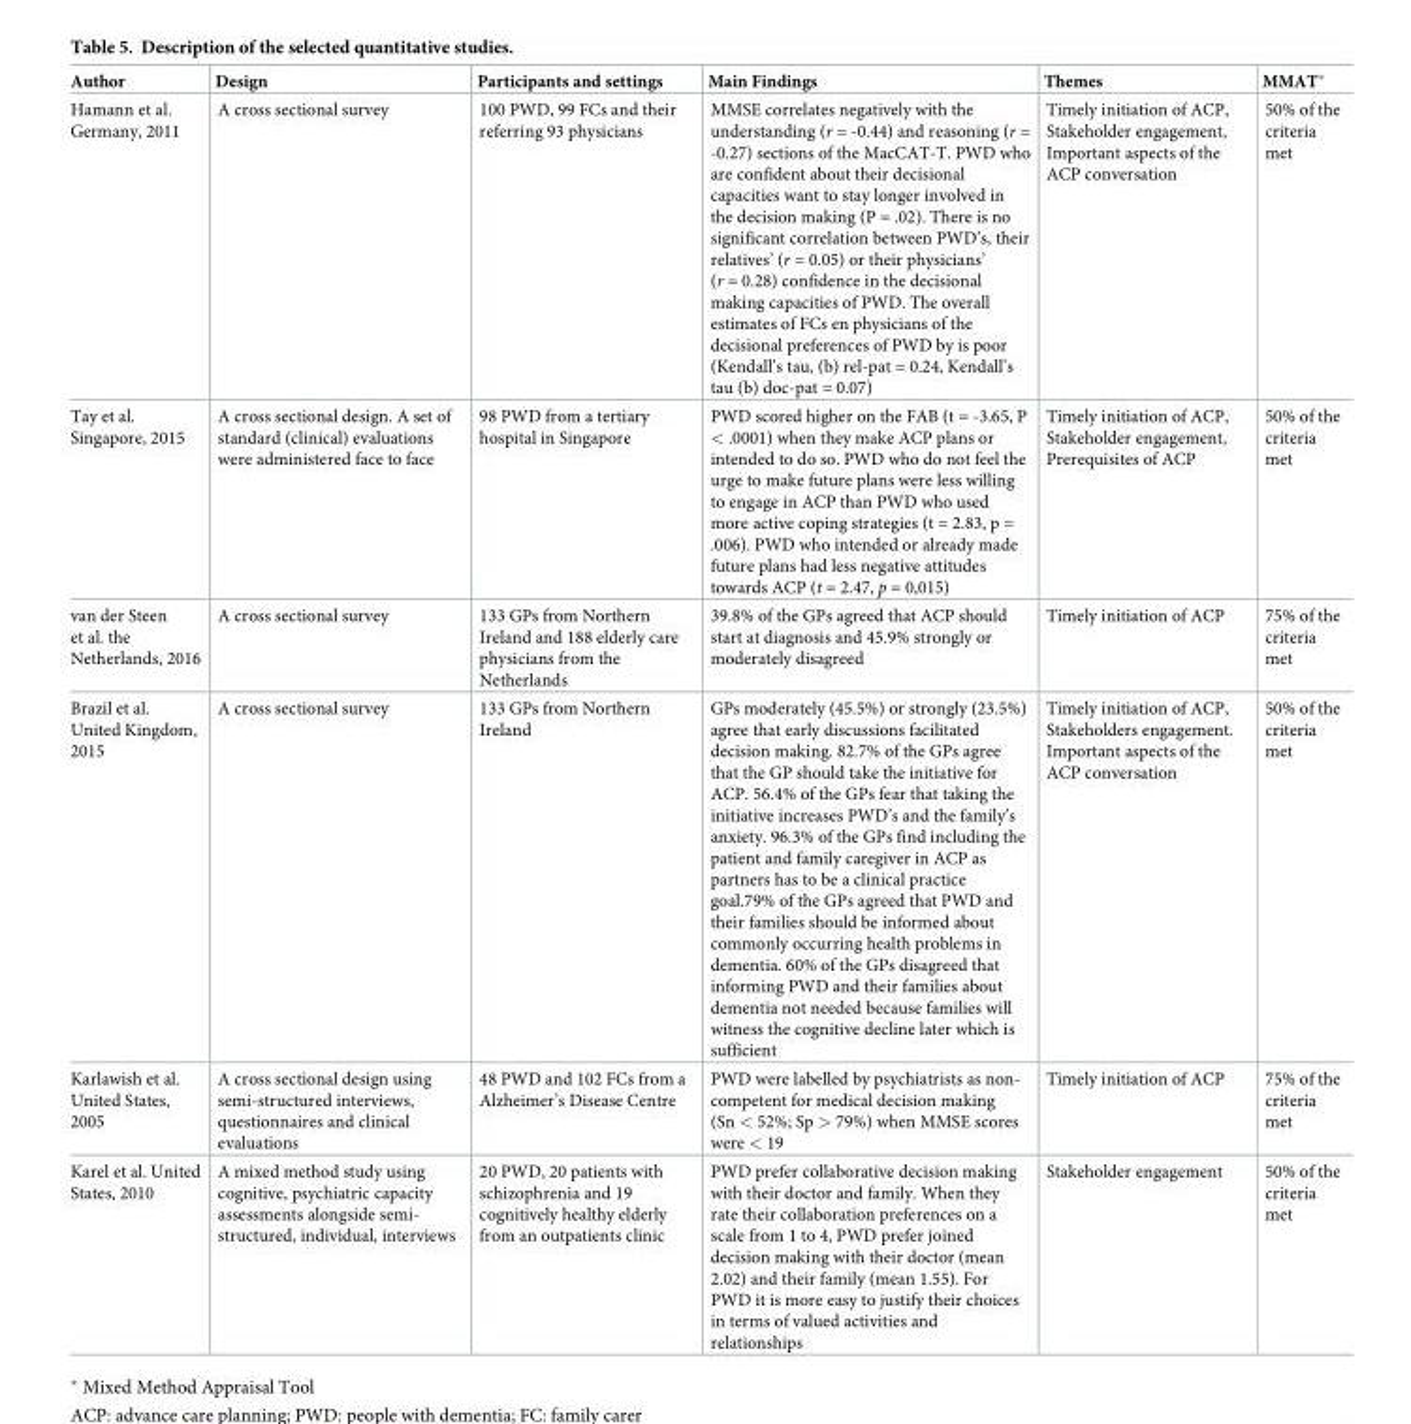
<table><thead><tr><td>Author</td><td>Design</td><td>Participants and settings</td><td>Main Findings</td><td>Themes</td><td>MMAT*</td></tr></thead><tbody><tr><td>Hamann et al. Germany, 2011</td><td>A cross sectional survey</td><td>100 PWD, 99 FCs and their referring 93 physicians</td><td>MMSE correlates negatively with the understanding (r = -0.44) and reasoning (r = -0.27) sections of the MacCAT-T. PWD who are confident about their decisional capacities want to stay longer involved in the decision making (P = .02). There is no significant correlation between PWD’s, their relatives’ (r = 0.05) or their physicians’ (r = 0.28) confidence in the decisional making capacities of PWD. The overall estimates of FCs en physicians of the decisional preferences of PWD by is poor (Kendall’s tau, (b) rel-pat = 0.24, Kendall’s tau (b) doc-pat = 0.07)</td><td>Timely initiation of ACP, Stakeholder engagement, Important aspects of the ACP conversation</td><td>50% of the criteria met</td></tr><tr><td>Tay et al. Singapore, 2015</td><td>A cross sectional design. A set of standard (clinical) evaluations were administered face to face</td><td>98 PWD from a tertiary hospital in Singapore</td><td>PWD scored higher on the FAB (t = -3.65, P &lt; .0001) when they make ACP plans or intended to do so. PWD who do not feel the urge to make future plans were less willing to engage in ACP than PWD who used more active coping strategies (t = 2.83, p = .006). PWD who intended or already made future plans had less negative attitudes towards ACP (t = 2.47, p = 0,015)</td><td>Timely initiation of ACP, Stakeholder engagement, Prerequisites of ACP</td><td>50% of the criteria met</td></tr><tr><td>van der Steen et al. the Netherlands, 2016</td><td>A cross sectional survey</td><td>133 GPs from Northern Ireland and 188 elderly care physicians from the Netherlands</td><td>39.8% of the GPs agreed that ACP should start at diagnosis and 45.9% strongly or moderately disagreed</td><td>Timely initiation of ACP</td><td>75% of the criteria met</td></tr><tr><td>Brazil et al. United Kingdom, 2015</td><td>A cross sectional survey</td><td>133 GPs from Northern Ireland</td><td>GPs moderately (45.5%) or strongly (23.5%) agree that early discussions facilitated decision making. 82.7% of the GPs agree that the GP should take the initiative for ACP. 56.4% of the GPs fear that taking the initiative increases PWD’s and the family’s anxiety. 96.3% of the GPs find including the patient and family caregiver in ACP as partners has to be a clinical practice goal.79% of the GPs agreed that PWD and their families should be informed about commonly occurring health problems in dementia. 60% of the GPs disagreed that informing PWD and their families about dementia not needed because families will witness the cognitive decline later which is sufficient</td><td>Timely initiation of ACP, Stakeholders engagement. Important aspects of the ACP conversation</td><td>50% of the criteria met</td></tr><tr><td>Karlawish et al. United States, 2005</td><td>A cross sectional design using semi-structured interviews, questionnaires and clinical evaluations</td><td>48 PWD and 102 FCs from a Alzheimer’s Disease Centre</td><td>PWD were labelled by psychiatrists as non- competent for medical decision making (Sn &lt; 52%; Sp &gt; 79%) when MMSE scores were &lt; 19</td><td>Timely initiation of ACP</td><td>75% of the criteria met</td></tr><tr><td>Karel et al. United States, 2010</td><td>A mixed method study using cognitive, psychiatric capacity assessments alongside semi- structured, individual, interviews</td><td>20 PWD, 20 patients with schizophrenia and 19 cognitively healthy elderly from an outpatients clinic</td><td>PWD prefer collaborative decision making with their doctor and family. When they rate their collaboration preferences on a scale from 1 to 4, PWD prefer joined decision making with their doctor (mean 2.02) and their family (mean 1.55). For PWD it is more easy to justify their choices in terms of valued activities and relationships</td><td>Stakeholder engagement</td><td>50% of the criteria met</td></tr></tbody></table>